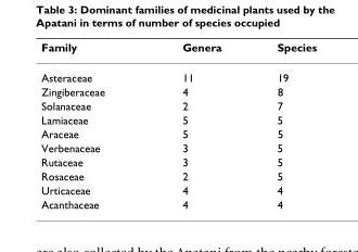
<table><thead><tr><td>Family</td><td>Genera</td><td>Species</td></tr></thead><tbody><tr><td>Asteraceae</td><td>11</td><td>19</td></tr><tr><td>Zingiberaceae</td><td>4</td><td>8</td></tr><tr><td>Solanaceae</td><td>2</td><td>7</td></tr><tr><td>Lamiaceae</td><td>5</td><td>5</td></tr><tr><td>Araceae</td><td>5</td><td>5</td></tr><tr><td>Verbenaceae</td><td>3</td><td>5</td></tr><tr><td>Rutaceae</td><td>3</td><td>5</td></tr><tr><td>Rosaceae</td><td>2</td><td>5</td></tr><tr><td>Urticaceae</td><td>4</td><td>4</td></tr><tr><td>Acanthaceae</td><td>4</td><td>4</td></tr></tbody></table>